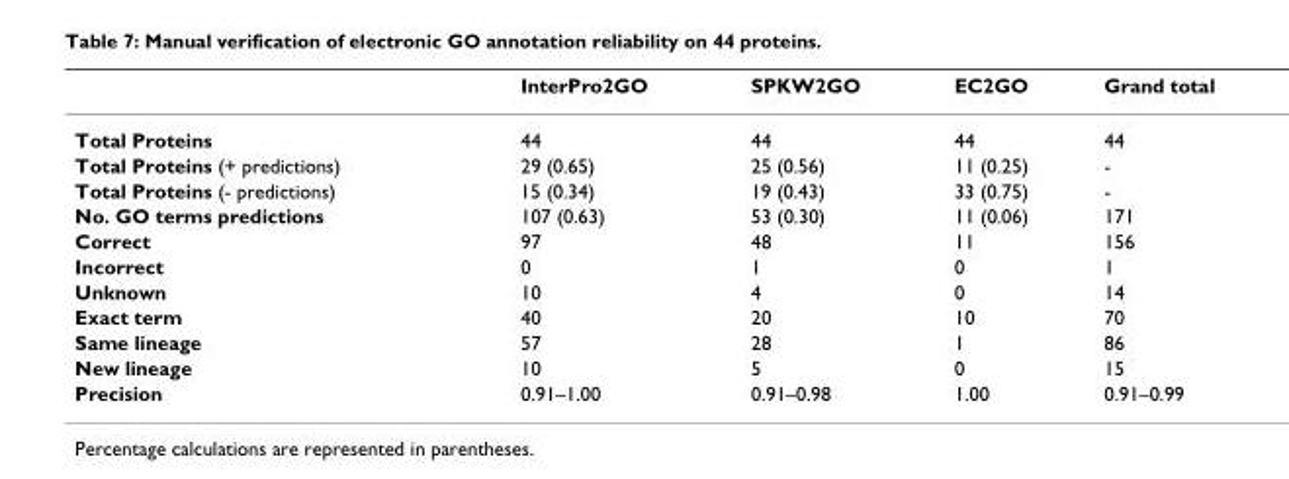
<table><thead><tr><td></td><td>InterPro2GO</td><td>SPKW2GO</td><td>EC2GO</td><td>Grand total</td></tr></thead><tbody><tr><td>Total Proteins</td><td>44</td><td>44</td><td>44</td><td>44</td></tr><tr><td>Total Proteins (+ predictions)</td><td>29 (0.65)</td><td>25 (0.56)</td><td>11 (0.25)</td><td>-</td></tr><tr><td>Total Proteins (- predictions)</td><td>15 (0.34)</td><td>19 (0.43)</td><td>33 (0.75)</td><td>-</td></tr><tr><td>No. GO terms predictions</td><td>107 (0.63)</td><td>53 (0.30)</td><td>11 (0.06)</td><td>171</td></tr><tr><td>Correct</td><td>97</td><td>48</td><td>11</td><td>156</td></tr><tr><td>Incorrect</td><td>0</td><td>1</td><td>0</td><td>1</td></tr><tr><td>Unknown</td><td>10</td><td>4</td><td>0</td><td>14</td></tr><tr><td>Exact term</td><td>40</td><td>20</td><td>10</td><td>70</td></tr><tr><td>Same lineage</td><td>57</td><td>28</td><td>1</td><td>86</td></tr><tr><td>New lineage</td><td>10</td><td>5</td><td>0</td><td>15</td></tr><tr><td>Precision</td><td>0.91–1.00</td><td>0.91–0.98</td><td>1.00</td><td>0.91–0.99</td></tr></tbody></table>